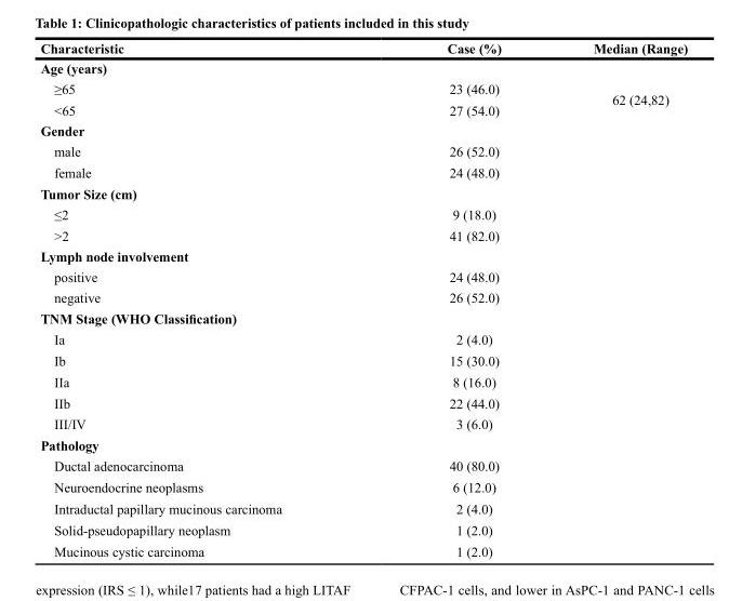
<table><thead><tr><td>Characteristic</td><td>Case (%)</td><td>Median (Range)</td></tr></thead><tbody><tr><td colspan="3">Age (years)</td></tr><tr><td>≥65</td><td>23 (46.0)</td><td rowspan="2">62 (24,82)</td></tr><tr><td>&lt;65</td><td>27 (54.0)</td></tr><tr><td colspan="3">Gender</td></tr><tr><td>male</td><td>26 (52.0)</td><td></td></tr><tr><td>female</td><td>24 (48.0)</td><td></td></tr><tr><td colspan="3">Tumor Size (cm)</td></tr><tr><td>≤2</td><td>9 (18.0)</td><td></td></tr><tr><td>&gt;2</td><td>41 (82.0)</td><td></td></tr><tr><td colspan="3">Lymph node involvement</td></tr><tr><td>positive</td><td>24 (48.0)</td><td></td></tr><tr><td>negative</td><td>26 (52.0)</td><td></td></tr><tr><td colspan="3">TNM Stage (WHO Classification)</td></tr><tr><td>Ia</td><td>2 (4.0)</td><td></td></tr><tr><td>Ib</td><td>15 (30.0)</td><td></td></tr><tr><td>IIa</td><td>8 (16.0)</td><td></td></tr><tr><td>IIb</td><td>22 (44.0)</td><td></td></tr><tr><td>III/IV</td><td>3 (6.0)</td><td></td></tr><tr><td colspan="3">Pathology</td></tr><tr><td>Ductal adenocarcinoma</td><td>40 (80.0)</td><td></td></tr><tr><td>Neuroendocrine neoplasms</td><td>6 (12.0)</td><td></td></tr><tr><td>Intraductal papillary mucinous carcinoma</td><td>2 (4.0)</td><td></td></tr><tr><td>Solid-pseudopapillary neoplasm</td><td>1 (2.0)</td><td></td></tr><tr><td>Mucinous cystic carcinoma</td><td>1 (2.0)</td><td></td></tr></tbody></table>